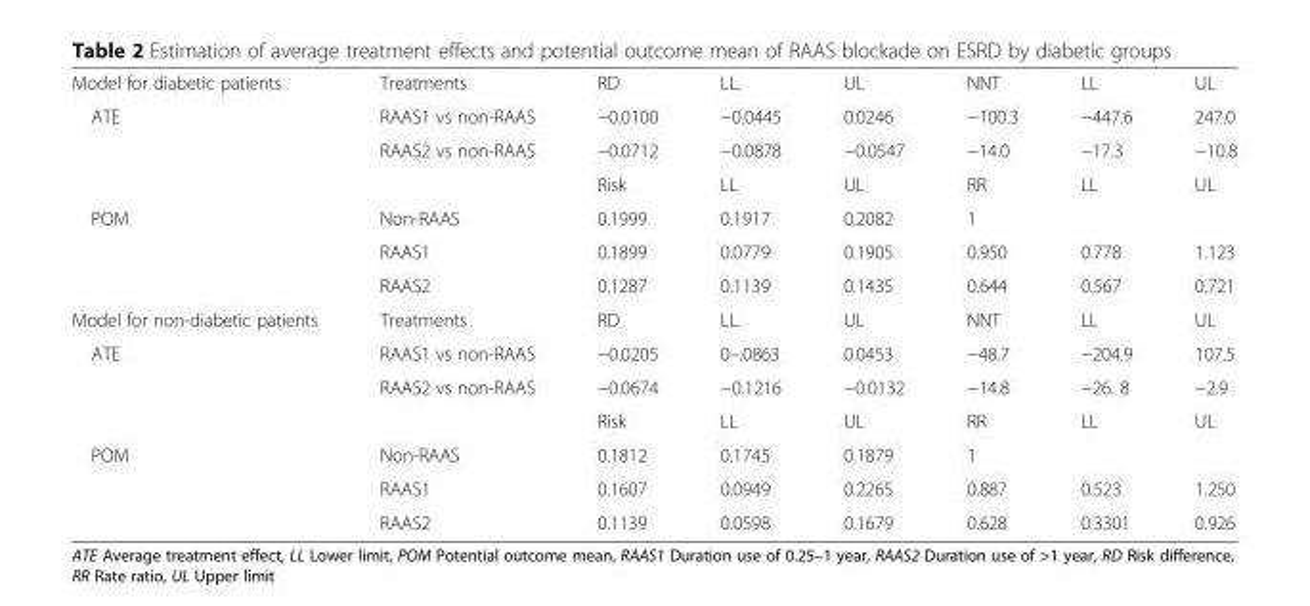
<table><tbody><tr><td>Model for diabetic patients</td><td>Treatments</td><td>RD</td><td>LL.</td><td>UL</td><td>NNT</td><td>LL</td><td>UL</td></tr><tr><td rowspan="3">ATE</td><td>RAAS1 vs non-RAAS</td><td>−0.0100</td><td>−0.0445</td><td>0.0246</td><td>−100.3</td><td>−447.6</td><td>247.0</td></tr><tr><td>RAAS2 vs non-RAAS</td><td>−0.0712</td><td>−0.0878</td><td>−0.0547</td><td>−14.0</td><td>−17.3</td><td>−10.8</td></tr><tr><td></td><td>Risk</td><td>LL</td><td>UL</td><td>RR</td><td>LL</td><td>UL</td></tr><tr><td rowspan="3">POM</td><td>Non-RAAS</td><td>0.1999</td><td>0.1917</td><td>0.2082</td><td>1</td><td></td><td></td></tr><tr><td>RAAS1</td><td>0.1899</td><td>0.0779</td><td>0.1905</td><td>0.950</td><td>0.778</td><td>1.123</td></tr><tr><td>RAAS2</td><td>0.1287</td><td>0.1139</td><td>0.1435</td><td>0.644</td><td>0.567</td><td>0.721</td></tr><tr><td>Model for non-diabetic patients</td><td>Treatments</td><td>RD</td><td>LL.</td><td>UL</td><td>NNT</td><td>LL</td><td>UL</td></tr><tr><td rowspan="3">ATE</td><td>RAAS1 vs non-RAAS</td><td>−0.0205</td><td>0–.0863</td><td>0.0453</td><td>−48.7</td><td>−204.9</td><td>107.5</td></tr><tr><td>RAAS2 vs non-RAAS</td><td>−0.0674</td><td>−0.1216</td><td>−0.0132</td><td>−14.8</td><td>−26. 8</td><td>−2.9</td></tr><tr><td></td><td>Risk</td><td>LL</td><td>UL</td><td>RR</td><td>LL</td><td>UL</td></tr><tr><td rowspan="3">POM</td><td>Non-RAAS</td><td>0.1812</td><td>0.1745</td><td>0.1879</td><td>1</td><td></td><td></td></tr><tr><td>RAAS1</td><td>0.1607</td><td>0.0949</td><td>0.2265</td><td>0.887</td><td>0.523</td><td>1.250</td></tr><tr><td>RAAS2</td><td>0.1139</td><td>0.0598</td><td>0.1679</td><td>0.628</td><td>0.3301</td><td>0.926</td></tr></tbody></table>